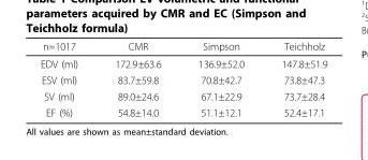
<table><thead><tr><td>n=1017</td><td>CMR</td><td>Simpson</td><td>Teichholz</td></tr></thead><tbody><tr><td>EDV (ml)</td><td>172.9±63.6</td><td>136.9±52.0</td><td>147.8±51.9</td></tr><tr><td>ESV (ml)</td><td>83.7±59.8</td><td>70.8±42.7</td><td>73.8±47.3</td></tr><tr><td>SV (ml)</td><td>89.0±24.6</td><td>67.1±22.9</td><td>73.7±28.4</td></tr><tr><td>EF (%)</td><td>54.8±14.0</td><td>51.1±12.1</td><td>52.4±17.1</td></tr></tbody></table>